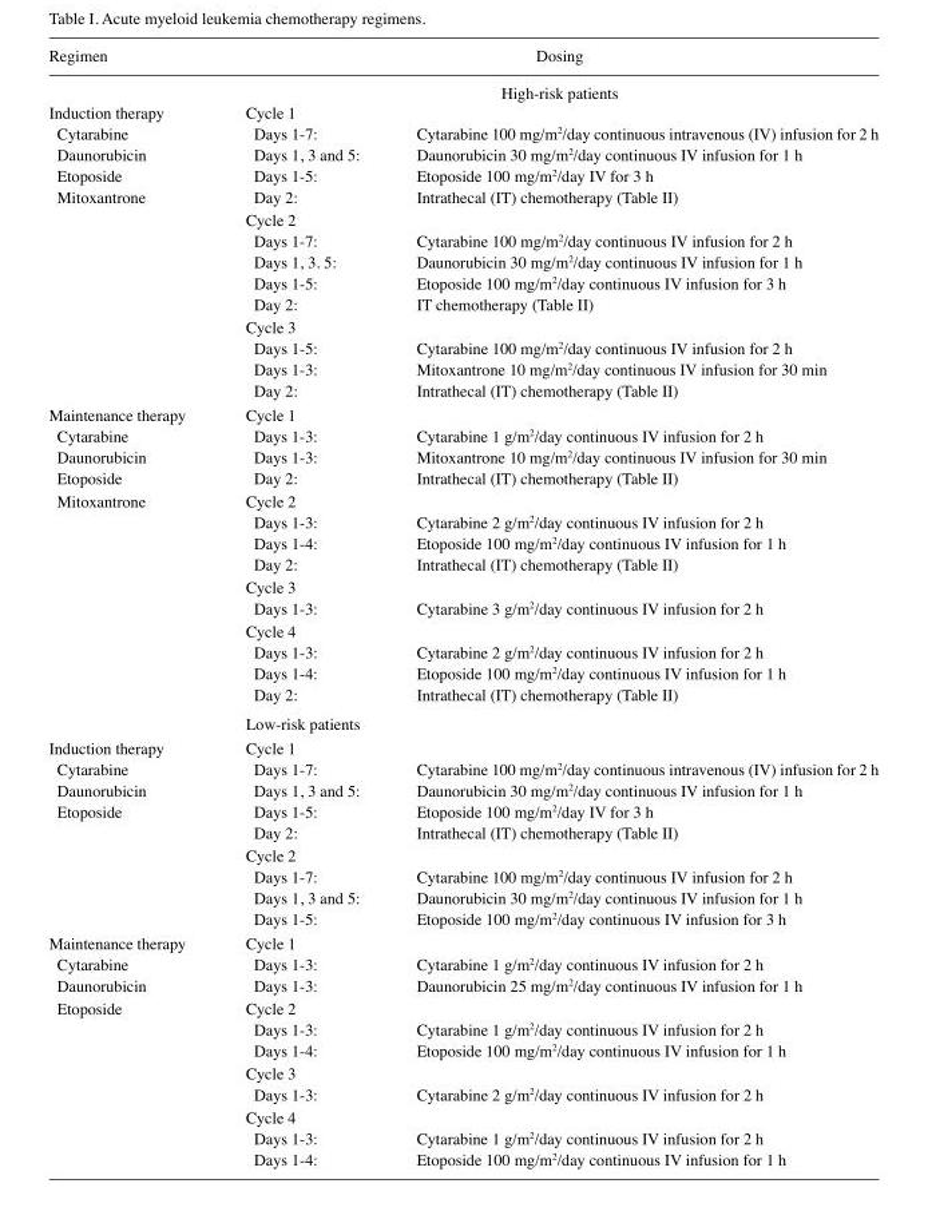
<table><thead><tr><td>Regimen</td><td></td><td>Dosing</td></tr></thead><tbody><tr><td></td><td></td><td>High-risk patients</td></tr><tr><td>Induction therapy</td><td>Cycle 1</td><td></td></tr><tr><td>Cytarabine</td><td>Days 1-7:</td><td>Cytarabine 100 mg/m<sup>2</sup>/day continuous intravenous (Iv) infusion for 2 h</td></tr><tr><td>Daunorubicin</td><td>Days 1, 3 and 5:</td><td>Daunorubicin 30 mg/m<sup>2</sup>/day continuous Iv infusion for 1 h</td></tr><tr><td>Etoposide</td><td>Days 1-5:</td><td>Etoposide 100 mg/m<sup>2</sup>/day Iv for 3 h</td></tr><tr><td rowspan="10">Mitoxantrone</td><td>day 2:</td><td>Intrathecal (It) chemotherapy (table II)</td></tr><tr><td>Cycle 2</td><td></td></tr><tr><td>Days 1-7:</td><td>Cytarabine 100 mg/m<sup>2</sup>/day continuous Iv infusion for 2 h</td></tr><tr><td>Days 1, 3. 5:</td><td>Daunorubicin 30 mg/m<sup>2</sup>/day continuous Iv infusion for 1 h</td></tr><tr><td>Days 1-5:</td><td>Etoposide 100 mg/m<sup>2</sup>/day continuous Iv infusion for 3 h</td></tr><tr><td>day 2:</td><td>It chemotherapy (table II)</td></tr><tr><td>Cycle 3</td><td></td></tr><tr><td>Days 1-5:</td><td>Cytarabine 100 mg/m<sup>2</sup>/day continuous Iv infusion for 2 h</td></tr><tr><td>days 1-3:</td><td>Mitoxantrone 10 mg/m<sup>2</sup>/day continuous Iv infusion for 30 min</td></tr><tr><td>day 2:</td><td>Intrathecal (It) chemotherapy (table II)</td></tr><tr><td>Maintenance therapy</td><td>Cycle 1</td><td></td></tr><tr><td>Cytarabine</td><td>Days 1-3:</td><td>Cytarabine 1 g/m<sup>2</sup>/day continuous Iv infusion for 2 h</td></tr><tr><td>daunorubicin</td><td>days 1-3:</td><td>Mitoxantrone 10 mg/m<sup>2</sup>/day continuous Iv infusion for 30 min</td></tr><tr><td>Etoposide</td><td>day 2:</td><td>Intrathecal (It) chemotherapy (table II)</td></tr><tr><td rowspan="11">Mitoxantrone</td><td>Cycle 2</td><td></td></tr><tr><td>Days 1-3:</td><td>Cytarabine 2 g/m<sup>2</sup>/day continuous Iv infusion for 2 h</td></tr><tr><td>Days 1-4:</td><td>Etoposide 100 mg/m<sup>2</sup>/day continuous Iv infusion for 1 h</td></tr><tr><td>day 2:</td><td>Intrathecal (It) chemotherapy (table II)</td></tr><tr><td>Cycle 3</td><td></td></tr><tr><td>Days 1-3:</td><td>Cytarabine 3 g/m<sup>2</sup>/day continuous Iv infusion for 2 h</td></tr><tr><td>Cycle 4</td><td></td></tr><tr><td>Days 1-3:</td><td>Cytarabine 2 g/m<sup>2</sup>/day continuous Iv infusion for 2 h</td></tr><tr><td>Days 1-4:</td><td>Etoposide 100 mg/m<sup>2</sup>/day continuous Iv infusion for 1 h</td></tr><tr><td>day 2:</td><td>Intrathecal (It) chemotherapy (table II)</td></tr><tr><td>Low-risk patients</td><td></td></tr><tr><td>Induction therapy</td><td>Cycle 1</td><td></td></tr><tr><td>Cytarabine</td><td>Days 1-7:</td><td>Cytarabine 100 mg/m<sup>2</sup>/day continuous intravenous (Iv) infusion for 2 h</td></tr><tr><td>Daunorubicin</td><td>Days 1, 3 and 5:</td><td>Daunorubicin 30 mg/m<sup>2</sup>/day continuous Iv infusion for 1 h</td></tr><tr><td rowspan="6">Etoposide</td><td>Days 1-5:</td><td>Etoposide 100 mg/m<sup>2</sup>/day Iv for 3 h</td></tr><tr><td>day 2:</td><td>Intrathecal (It) chemotherapy (table II)</td></tr><tr><td>Cycle 2</td><td></td></tr><tr><td>Days 1-7:</td><td>Cytarabine 100 mg/m<sup>2</sup>/day continuous Iv infusion for 2 h</td></tr><tr><td>Days 1, 3 and 5:</td><td>Daunorubicin 30 mg/m<sup>2</sup>/day continuous Iv infusion for 1 h</td></tr><tr><td>Days 1-5:</td><td>Etoposide 100 mg/m<sup>2</sup>/day continuous Iv infusion for 3 h</td></tr><tr><td>Maintenance therapy</td><td>Cycle 1</td><td></td></tr><tr><td>Cytarabine</td><td>Days 1-3:</td><td>Cytarabine 1 g/m<sup>2</sup>/day continuous Iv infusion for 2 h</td></tr><tr><td>Daunorubicin</td><td>Days 1-3:</td><td>Daunorubicin 25 mg/m<sup>2</sup>/day continuous Iv infusion for 1 h</td></tr><tr><td rowspan="8">Etoposide</td><td>Cycle 2</td><td></td></tr><tr><td>Days 1-3:</td><td>Cytarabine 1 g/m<sup>2</sup>/day continuous Iv infusion for 2 h</td></tr><tr><td>Days 1-4:</td><td>Etoposide 100 mg/m<sup>2</sup>/day continuous Iv infusion for 1 h</td></tr><tr><td>Cycle 3</td><td></td></tr><tr><td>Days 1-3:</td><td>Cytarabine 2 g/m<sup>2</sup>/day continuous Iv infusion for 2 h</td></tr><tr><td>Cycle 4</td><td></td></tr><tr><td>Days 1-3:</td><td>Cytarabine 1 g/m<sup>2</sup>/day continuous Iv infusion for 2 h</td></tr><tr><td>Days 1-4:</td><td>Etoposide 100 mg/m<sup>2</sup>/day continuous Iv infusion for 1 h</td></tr></tbody></table>